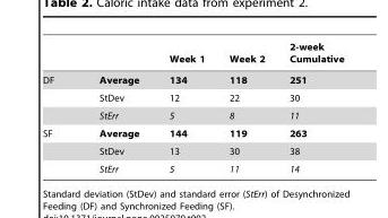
<table><thead><tr><td></td><td></td><td>Week 1</td><td>Week 2</td><td>2-week Cumulative</td></tr></thead><tbody><tr><td rowspan="3">DF</td><td>Average</td><td>134</td><td>118</td><td>251</td></tr><tr><td>StDev</td><td>12</td><td>22</td><td>30</td></tr><tr><td>StErr</td><td>5</td><td>8</td><td>11</td></tr><tr><td rowspan="3">SF</td><td>Average</td><td>144</td><td>119</td><td>263</td></tr><tr><td>StDev</td><td>13</td><td>30</td><td>38</td></tr><tr><td>StErr</td><td>5</td><td>11</td><td>14</td></tr></tbody></table>